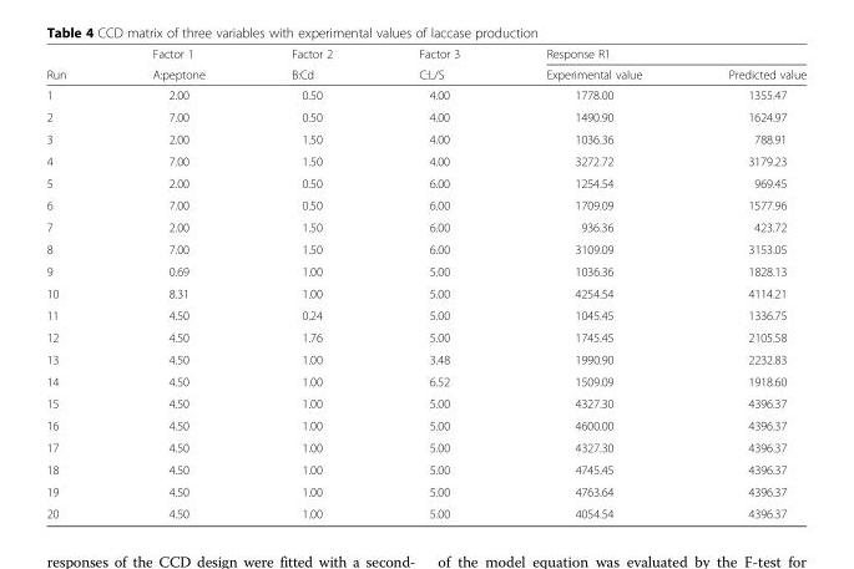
<table><thead><tr><td rowspan="2">Run</td><td rowspan="2">Factor 1 A:peptone</td><td rowspan="2">Factor 2 B:Cd</td><td rowspan="2">Factor 3 C:L/S</td><td colspan="2">Response R1</td></tr><tr><td>Experimental value</td><td>Predicted value</td></tr></thead><tbody><tr><td>1</td><td>2.00</td><td>0.50</td><td>4.00</td><td>1778.00</td><td>1355.47</td></tr><tr><td>2</td><td>7.00</td><td>0.50</td><td>4.00</td><td>1490.90</td><td>1624.97</td></tr><tr><td>3</td><td>2.00</td><td>1.50</td><td>4.00</td><td>1036.36</td><td>788.91</td></tr><tr><td>4</td><td>7.00</td><td>1.50</td><td>4.00</td><td>3272.72</td><td>3179.23</td></tr><tr><td>5</td><td>2.00</td><td>0.50</td><td>6.00</td><td>1254.54</td><td>969.45</td></tr><tr><td>6</td><td>7.00</td><td>0.50</td><td>6.00</td><td>1709.09</td><td>1577.96</td></tr><tr><td>7</td><td>2.00</td><td>1.50</td><td>6.00</td><td>936.36</td><td>423.72</td></tr><tr><td>8</td><td>7.00</td><td>1.50</td><td>6.00</td><td>3109.09</td><td>3153.05</td></tr><tr><td>9</td><td>0.69</td><td>1.00</td><td>5.00</td><td>1036.36</td><td>1828.13</td></tr><tr><td>10</td><td>8.31</td><td>1.00</td><td>5.00</td><td>4254.54</td><td>4114.21</td></tr><tr><td>11</td><td>4.50</td><td>0.24</td><td>5.00</td><td>1045.45</td><td>1336.75</td></tr><tr><td>12</td><td>4.50</td><td>1.76</td><td>5.00</td><td>1745.45</td><td>2105.58</td></tr><tr><td>13</td><td>4.50</td><td>1.00</td><td>3.48</td><td>1990.90</td><td>2232.83</td></tr><tr><td>14</td><td>4.50</td><td>1.00</td><td>6.52</td><td>1509.09</td><td>1918.60</td></tr><tr><td>15</td><td>4.50</td><td>1.00</td><td>5.00</td><td>4327.30</td><td>4396.37</td></tr><tr><td>16</td><td>4.50</td><td>1.00</td><td>5.00</td><td>4600.00</td><td>4396.37</td></tr><tr><td>17</td><td>4.50</td><td>1.00</td><td>5.00</td><td>4327.30</td><td>4396.37</td></tr><tr><td>18</td><td>4.50</td><td>1.00</td><td>5.00</td><td>4745.45</td><td>4396.37</td></tr><tr><td>19</td><td>4.50</td><td>1.00</td><td>5.00</td><td>4763.64</td><td>4396.37</td></tr><tr><td>20</td><td>4.50</td><td>1.00</td><td>5.00</td><td>4054.54</td><td>4396.37</td></tr></tbody></table>